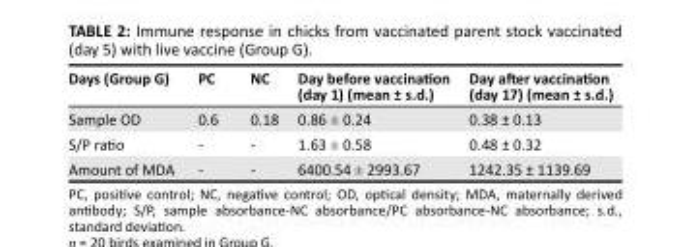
<table><thead><tr><td>Days (Group G)</td><td>PC</td><td>NC</td><td>Day before vaccination (day 1) (mean ± s.d.)</td><td>Day after vaccination (day 17) (mean ± s.d.)</td></tr></thead><tbody><tr><td>Sample OD</td><td>0.6</td><td>0.18</td><td>0.86 ± 0.24</td><td>0.38 ± 0.13</td></tr><tr><td>S/P ratio</td><td>-</td><td>-</td><td>1.63 ± 0.58</td><td>0.48 ± 0.32</td></tr><tr><td>Amount of MDA</td><td>-</td><td>-</td><td>6400.54 ± 2993.67</td><td>1242.35 ± 1139.69</td></tr></tbody></table>